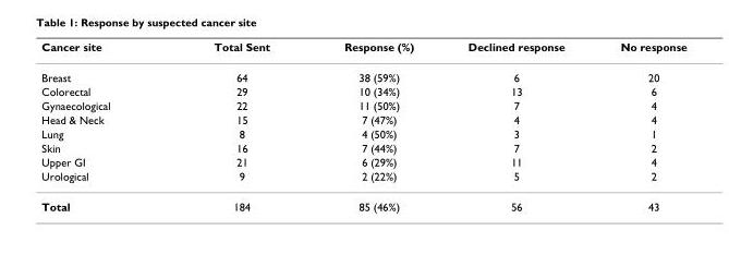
<table><thead><tr><td>Cancer site</td><td>Total Sent</td><td>Response (%)</td><td>Declined response</td><td>No response</td></tr></thead><tbody><tr><td>Breast</td><td>64</td><td>38 (59%)</td><td>6</td><td>20</td></tr><tr><td>Colorectal</td><td>29</td><td>10 (34%)</td><td>13</td><td>6</td></tr><tr><td>Gynaecological</td><td>22</td><td>11 (50%)</td><td>7</td><td>4</td></tr><tr><td>Head &amp; Neck</td><td>15</td><td>7 (47%)</td><td>4</td><td>4</td></tr><tr><td>Lung</td><td>8</td><td>4 (50%)</td><td>3</td><td>1</td></tr><tr><td>Skin</td><td>16</td><td>7 (44%)</td><td>7</td><td>2</td></tr><tr><td>Upper GI</td><td>21</td><td>6 (29%)</td><td>11</td><td>4</td></tr><tr><td>Urological</td><td>9</td><td>2 (22%)</td><td>5</td><td>2</td></tr><tr><td>Total</td><td>184</td><td>85 (46%)</td><td>56</td><td>43</td></tr></tbody></table>